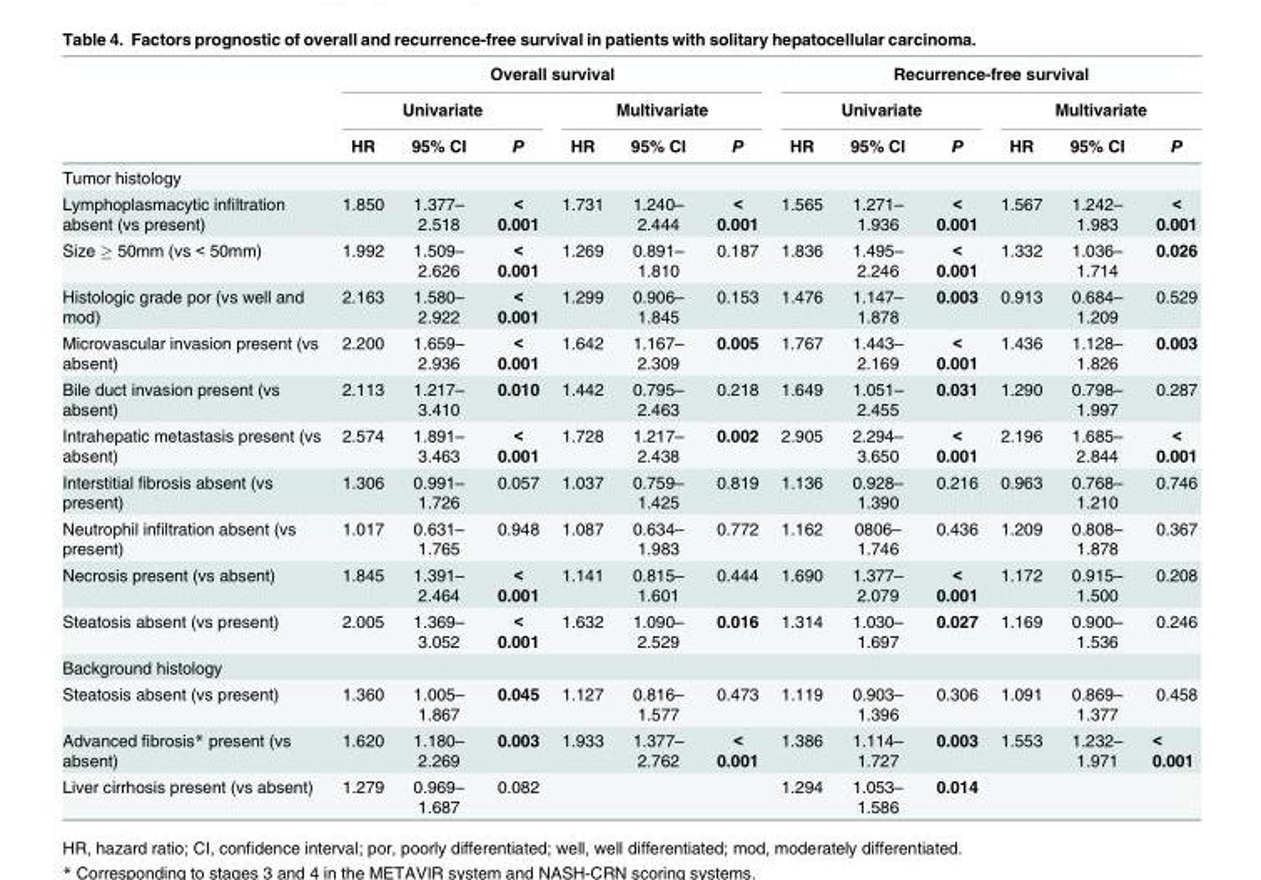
<table><thead><tr><td rowspan="3"></td><td colspan="6">Overall survival</td><td colspan="6">Recurrence-free survival</td></tr><tr><td colspan="3">Univariate</td><td colspan="3">Multivariate</td><td colspan="3">Univariate</td><td colspan="3">Multivariate</td></tr><tr><td>HR</td><td>95% CI</td><td>P</td><td>HR</td><td>95% CI</td><td>P</td><td>HR</td><td>95% CI</td><td>P</td><td>HR</td><td>95% CI</td><td>P</td></tr></thead><tbody><tr><td colspan="13">Tumor histology</td></tr><tr><td>Lymphoplasmacytic infiltration absent (vs present)</td><td>1.850</td><td>1.377– 2.518</td><td>&lt; 0.001</td><td>1.731</td><td>1.240– 2.444</td><td>&lt; 0.001</td><td>1.565</td><td>1.271– 1.936</td><td>&lt; 0.001</td><td>1.567</td><td>1.242– 1.983</td><td>&lt; 0.001</td></tr><tr><td>Size ≥ 50mm (vs &lt; 50mm)</td><td>1.992</td><td>1.509– 2.626</td><td>&lt; 0.001</td><td>1.269</td><td>0.891– 1.810</td><td>0.187</td><td>1.836</td><td>1.495– 2.246</td><td>&lt; 0.001</td><td>1.332</td><td>1.036– 1.714</td><td>0.026</td></tr><tr><td>Histologic grade por (vs well and mod)</td><td>2.163</td><td>1.580– 2.922</td><td>&lt; 0.001</td><td>1.299</td><td>0.906– 1.845</td><td>0.153</td><td>1.476</td><td>1.147– 1.878</td><td>0.003</td><td>0.913</td><td>0.684– 1.209</td><td>0.529</td></tr><tr><td>Microvascular invasion present (vs absent)</td><td>2.200</td><td>1.659– 2.936</td><td>&lt; 0.001</td><td>1.642</td><td>1.167– 2.309</td><td>0.005</td><td>1.767</td><td>1.443– 2.169</td><td>&lt; 0.001</td><td>1.436</td><td>1.128– 1.826</td><td>0.003</td></tr><tr><td>Bile duct invasion present (vs absent)</td><td>2.113</td><td>1.217– 3.410</td><td>0.010</td><td>1.442</td><td>0.795– 2.463</td><td>0.218</td><td>1.649</td><td>1.051– 2.455</td><td>0.031</td><td>1.290</td><td>0.798– 1.997</td><td>0.287</td></tr><tr><td>Intrahepatic metastasis present (vs absent)</td><td>2.574</td><td>1.891– 3.463</td><td>&lt; 0.001</td><td>1.728</td><td>1.217– 2.438</td><td>0.002</td><td>2.905</td><td>2.294– 3.650</td><td>&lt; 0.001</td><td>2.196</td><td>1.685– 2.844</td><td>&lt; 0.001</td></tr><tr><td>Interstitial fibrosis absent (vs present)</td><td>1.306</td><td>0.991– 1.726</td><td>0.057</td><td>1.037</td><td>0.759– 1.425</td><td>0.819</td><td>1.136</td><td>0.928– 1.390</td><td>0.216</td><td>0.963</td><td>0.768– 1.210</td><td>0.746</td></tr><tr><td>Neutrophil infiltration absent (vs present)</td><td>1.017</td><td>0.631– 1.765</td><td>0.948</td><td>1.087</td><td>0.634– 1.983</td><td>0.772</td><td>1.162</td><td>0806– 1.746</td><td>0.436</td><td>1.209</td><td>0.808– 1.878</td><td>0.367</td></tr><tr><td>Necrosis present (vs absent)</td><td>1.845</td><td>1.391– 2.464</td><td>&lt; 0.001</td><td>1.141</td><td>0.815– 1.601</td><td>0.444</td><td>1.690</td><td>1.377– 2.079</td><td>&lt; 0.001</td><td>1.172</td><td>0.915– 1.500</td><td>0.208</td></tr><tr><td>Steatosis absent (vs present)</td><td>2.005</td><td>1.369– 3.052</td><td>&lt; 0.001</td><td>1.632</td><td>1.090– 2.529</td><td>0.016</td><td>1.314</td><td>1.030– 1.697</td><td>0.027</td><td>1.169</td><td>0.900– 1.536</td><td>0.246</td></tr><tr><td colspan="13">Background histology</td></tr><tr><td>Steatosis absent (vs present)</td><td>1.360</td><td>1.005– 1.867</td><td>0.045</td><td>1.127</td><td>0.816– 1.577</td><td>0.473</td><td>1.119</td><td>0.903– 1.396</td><td>0.306</td><td>1.091</td><td>0.869– 1.377</td><td>0.458</td></tr><tr><td>Advanced fibrosis* present (vs absent)</td><td>1.620</td><td>1.180– 2.269</td><td>0.003</td><td>1.933</td><td>1.377– 2.762</td><td>&lt; 0.001</td><td>1.386</td><td>1.114– 1.727</td><td>0.003</td><td>1.553</td><td>1.232– 1.971</td><td>&lt; 0.001</td></tr><tr><td>Liver cirrhosis present (vs absent)</td><td>1.279</td><td>0.969– 1.687</td><td>0.082</td><td></td><td></td><td></td><td>1.294</td><td>1.053– 1.586</td><td>0.014</td><td></td><td></td><td></td></tr></tbody></table>